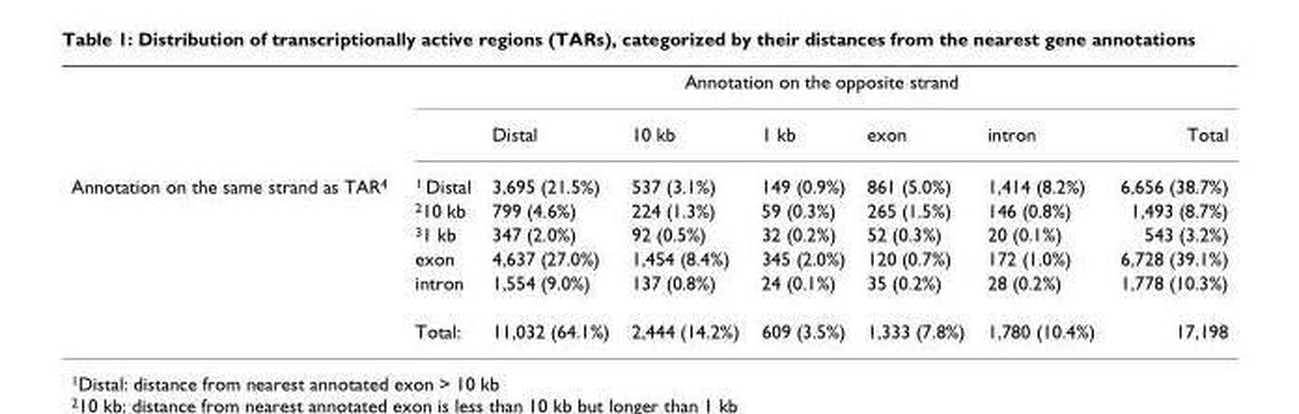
<table><thead><tr><td rowspan="2"></td><td colspan="7">Annotation on the opposite strand</td></tr><tr><td></td><td>Distal</td><td>10 kb</td><td>1 kb</td><td>exon</td><td>intron</td><td>Total</td></tr></thead><tbody><tr><td rowspan="6">Annotation on the same strand as TAR4</td><td>1 Distal</td><td>3,695 (21.5%)</td><td>537 (3.1%)</td><td>149 (0.9%)</td><td>861 (5.0%)</td><td>1,414 (8.2%)</td><td>6,656 (38.7%)</td></tr><tr><td>210 kb</td><td>799 (4.6%)</td><td>224 (1.3%)</td><td>59 (0.3%)</td><td>265 (1.5%)</td><td>146 (0.8%)</td><td>1,493 (8.7%)</td></tr><tr><td>31 kb</td><td>347 (2.0%)</td><td>92 (0.5%)</td><td>32 (0.2%)</td><td>52 (0.3%)</td><td>20 (0.1%)</td><td>543 (3.2%)</td></tr><tr><td>exon</td><td>4,637 (27.0%)</td><td>1,454 (8.4%)</td><td>345 (2.0%)</td><td>120 (0.7%)</td><td>172 (1.0%)</td><td>6,728 (39.1%)</td></tr><tr><td>intron</td><td>1,554 (9.0%)</td><td>137 (0.8%)</td><td>24 (0.1%)</td><td>35 (0.2%)</td><td>28 (0.2%)</td><td>1,778 (10.3%)</td></tr><tr><td>Total:</td><td>11,032 (64.1%)</td><td>2,444 (14.2%)</td><td>609 (3.5%)</td><td>1,333 (7.8%)</td><td>1,780 (10.4%)</td><td>17,198</td></tr></tbody></table>